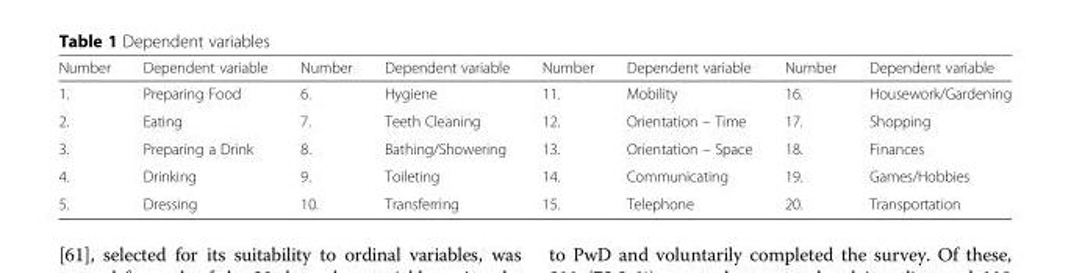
<table><thead><tr><td>Number</td><td>Dependent variable</td><td>Number</td><td>Dependent variable</td><td>Number</td><td>Dependent variable</td><td>Number</td><td>Dependent variable</td></tr></thead><tbody><tr><td>1.</td><td>Preparing Food</td><td>6.</td><td>Hygiene</td><td>11.</td><td>Mobility</td><td>16.</td><td>Housework/Gardening</td></tr><tr><td>2.</td><td>Eating</td><td>7.</td><td>Teeth Cleaning</td><td>12.</td><td>Orientation – Time</td><td>17.</td><td>Shopping</td></tr><tr><td>3.</td><td>Preparing a Drink</td><td>8.</td><td>Bathing/Showering</td><td>13.</td><td>Orientation – Space</td><td>18.</td><td>Finances</td></tr><tr><td>4.</td><td>Drinking</td><td>9.</td><td>Toileting</td><td>14.</td><td>Communicating</td><td>19.</td><td>Games/Hobbies</td></tr><tr><td>5.</td><td>Dressing</td><td>10.</td><td>Transferring</td><td>15.</td><td>Telephone</td><td>20.</td><td>Transportation</td></tr></tbody></table>